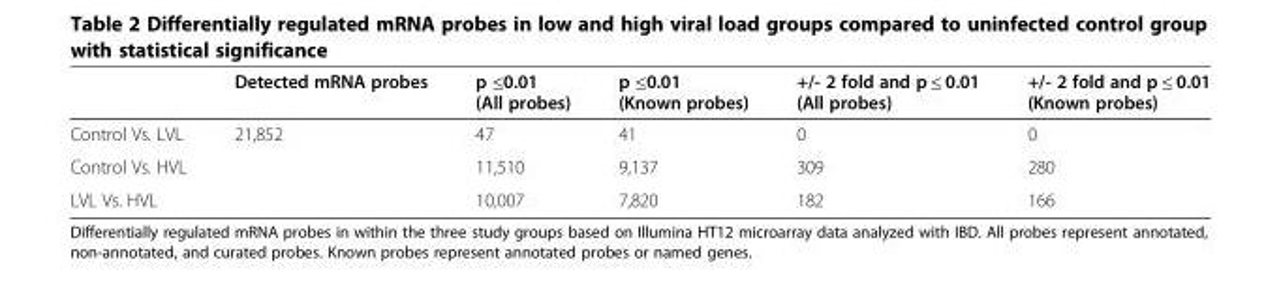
<table><thead><tr><td></td><td>Detected mRNA probes</td><td>p ≤0.01 (All probes)</td><td>p ≤0.01 (Known probes)</td><td>+/- 2 fold and p ≤ 0.01 (All probes)</td><td>+/- 2 fold and p ≤ 0.01 (Known probes)</td></tr></thead><tbody><tr><td>Control Vs. LVL</td><td>21,852</td><td>47</td><td>41</td><td>0</td><td>0</td></tr><tr><td>Control Vs. HVL</td><td></td><td>11,510</td><td>9,137</td><td>309</td><td>280</td></tr><tr><td>LVL Vs. HVL</td><td></td><td>10,007</td><td>7,820</td><td>182</td><td>166</td></tr></tbody></table>